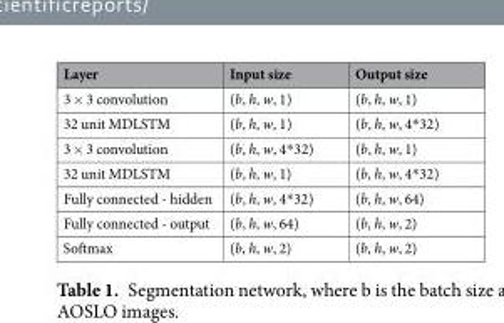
<table><thead><tr><td>Layer</td><td>Input size</td><td>Output size</td></tr></thead><tbody><tr><td>3 × 3 convolution</td><td>(b, h, w, 1)</td><td>(b, h, w, 1)</td></tr><tr><td>32 unit MDLSTM</td><td>(b, h, w, 1)</td><td>(b, h, w, 4*32)</td></tr><tr><td>3 × 3 convolution</td><td>(b, h, w, 4*32)</td><td>(b, h, w, 1)</td></tr><tr><td>32 unit MDLSTM</td><td>(b, h, w, 1)</td><td>(b, h, w, 4*32)</td></tr><tr><td>Fully connected - hidden</td><td>(b, h, w, 4*32)</td><td>(b, h, w, 64)</td></tr><tr><td>Fully connected - output</td><td>(b, h, w, 64)</td><td>(b, h, w, 2)</td></tr><tr><td>Softmax</td><td>(b, h, w, 2)</td><td>(b, h, w, 2)</td></tr></tbody></table>